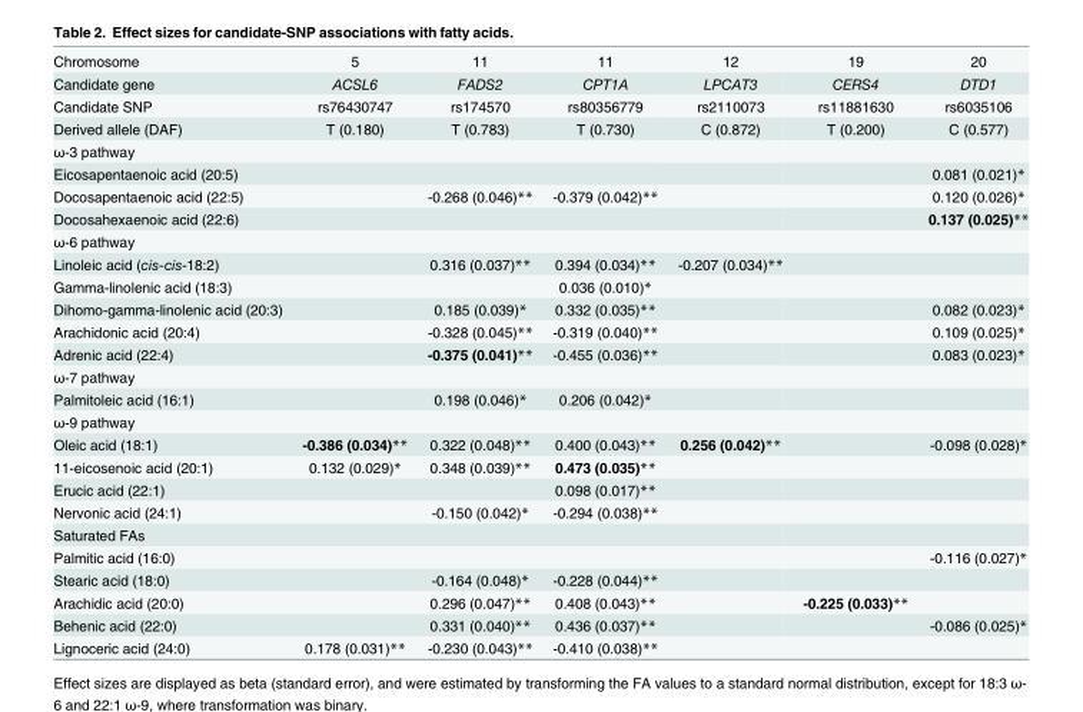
<table><tbody><tr><td>Chromosome</td><td>5</td><td>11</td><td>11</td><td>12</td><td>19</td><td>20</td></tr><tr><td>Candidate gene</td><td>ACSL6</td><td>FADS2</td><td>CPT1A</td><td>LPCAT3</td><td>CERS4</td><td>DTD1</td></tr><tr><td>Candidate SNP</td><td>rs76430747</td><td>rs174570</td><td>rs80356779</td><td>rs2110073</td><td>rs11881630</td><td>rs6035106</td></tr><tr><td>Derived allele (DAF)</td><td>T (0.180)</td><td>T (0.783)</td><td>T (0.730)</td><td>C (0.872)</td><td>T (0.200)</td><td>C (0.577)</td></tr><tr><td colspan="7">ω-3 pathway</td></tr><tr><td>Eicosapentaenoic acid (20:5)</td><td></td><td></td><td></td><td></td><td></td><td>0.081 (0.021)*</td></tr><tr><td>Docosapentaenoic acid (22:5)</td><td></td><td>-0.268 (0.046)**</td><td>-0.379 (0.042)**</td><td></td><td></td><td>0.120 (0.026)*</td></tr><tr><td>Docosahexaenoic acid (22:6)</td><td></td><td></td><td></td><td></td><td></td><td>0.137 (0.025)**</td></tr><tr><td colspan="7">ω-6 pathway</td></tr><tr><td>Linoleic acid (cis-cis-18:2)</td><td></td><td>0.316 (0.037)**</td><td>0.394 (0.034)**</td><td>-0.207 (0.034)**</td><td></td><td></td></tr><tr><td>Gamma-linolenic acid (18:3)</td><td></td><td></td><td>0.036 (0.010)*</td><td></td><td></td><td></td></tr><tr><td>Dihomo-gamma-linolenic acid (20:3)</td><td></td><td>0.185 (0.039)*</td><td>0.332 (0.035)**</td><td></td><td></td><td>0.082 (0.023)*</td></tr><tr><td>Arachidonic acid (20:4)</td><td></td><td>-0.328 (0.045)**</td><td>-0.319 (0.040)**</td><td></td><td></td><td>0.109 (0.025)*</td></tr><tr><td>Adrenic acid (22:4)</td><td></td><td>-0.375 (0.041)**</td><td>-0.455 (0.036)**</td><td></td><td></td><td>0.083 (0.023)*</td></tr><tr><td colspan="7">ω-7 pathway</td></tr><tr><td>Palmitoleic acid (16:1)</td><td></td><td>0.198 (0.046)*</td><td>0.206 (0.042)*</td><td></td><td></td><td></td></tr><tr><td colspan="7">ω-9 pathway</td></tr><tr><td>Oleic acid (18:1)</td><td>-0.386 (0.034)**</td><td>0.322 (0.048)**</td><td>0.400 (0.043)**</td><td>0.256 (0.042)**</td><td></td><td>-0.098 (0.028)*</td></tr><tr><td>11-eicosenoic acid (20:1)</td><td>0.132 (0.029)*</td><td>0.348 (0.039)**</td><td>0.473 (0.035)**</td><td></td><td></td><td></td></tr><tr><td>Erucic acid (22:1)</td><td></td><td></td><td>0.098 (0.017)**</td><td></td><td></td><td></td></tr><tr><td>Nervonic acid (24:1)</td><td></td><td>-0.150 (0.042)*</td><td>-0.294 (0.038)**</td><td></td><td></td><td></td></tr><tr><td colspan="7">Saturated FAs</td></tr><tr><td>Palmitic acid (16:0)</td><td></td><td></td><td></td><td></td><td></td><td>-0.116 (0.027)*</td></tr><tr><td>Stearic acid (18:0)</td><td></td><td>-0.164 (0.048)*</td><td>-0.228 (0.044)**</td><td></td><td></td><td></td></tr><tr><td>Arachidic acid (20:0)</td><td></td><td>0.296 (0.047)**</td><td>0.408 (0.043)**</td><td></td><td>-0.225 (0.033)**</td><td></td></tr><tr><td>Behenic acid (22:0)</td><td></td><td>0.331 (0.040)**</td><td>0.436 (0.037)**</td><td></td><td></td><td>-0.086 (0.025)*</td></tr><tr><td>Lignoceric acid (24:0)</td><td>0.178 (0.031)**</td><td>-0.230 (0.043)**</td><td>-0.410 (0.038)**</td><td></td><td></td><td></td></tr></tbody></table>